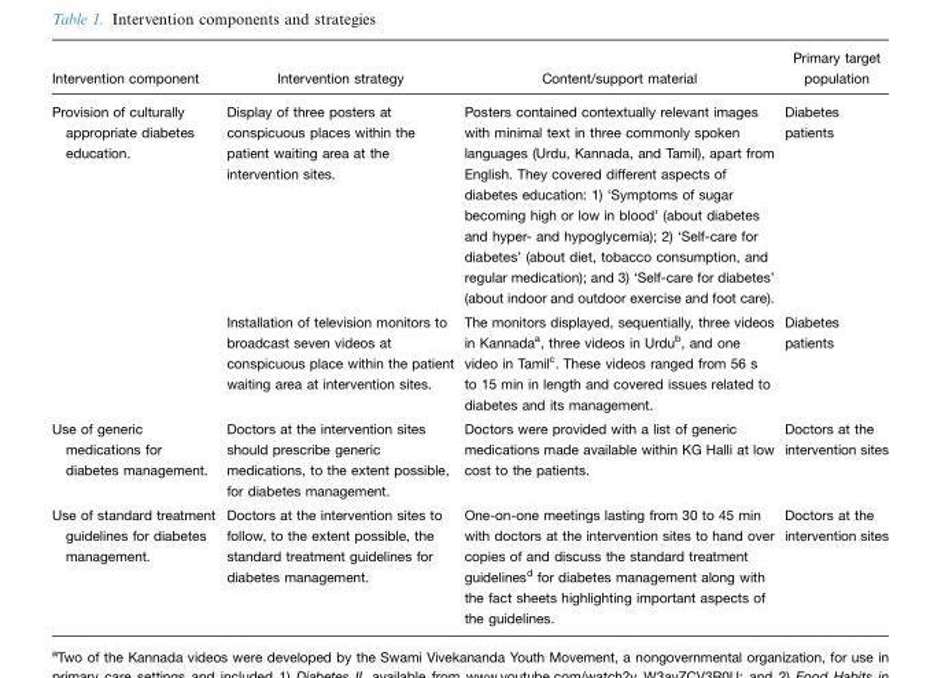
<table><thead><tr><td>Intervention component</td><td>Intervention strategy</td><td>Content/support material</td><td>Primary target population</td></tr></thead><tbody><tr><td rowspan="2">Provision of culturally appropriate diabetes education.</td><td>Display of three posters at conspicuous places within the patient waiting area at the intervention sites.</td><td>Posters contained contextually relevant images with minimal text in three commonly spoken languages (Urdu, Kannada, and Tamil), apart from English. They covered different aspects of diabetes education: 1) ‘Symptoms of sugar becoming high or low in blood’ (about diabetes and hyper- and hypoglycemia); 2) ‘Self-care for diabetes’ (about diet, tobacco consumption, and regular medication); and 3) ‘Self-care for diabetes’ (about indoor and outdoor exercise and foot care).</td><td>Diabetes patients</td></tr><tr><td>Installation of television monitors to broadcast seven videos at conspicuous place within the patient waiting area at intervention sites.</td><td>The monitors displayed, sequentially, three videos in Kannada<sup>a</sup>, three videos in Urdu<sup>b</sup>, and one video in Tamil<sup>c</sup>. These videos ranged from 56 s to 15 min in length and covered issues related to diabetes and its management.</td><td>Diabetes patients</td></tr><tr><td>Use of generic medications for diabetes management.</td><td>Doctors at the intervention sites should prescribe generic medications, to the extent possible, for diabetes management.</td><td>Doctors were provided with a list of generic medications made available within KG Halli at low cost to the patients.</td><td>Doctors at the intervention sites</td></tr><tr><td>Use of standard treatment guidelines for diabetes management.</td><td>Doctors at the intervention sites to follow, to the extent possible, the standard treatment guidelines for diabetes management.</td><td>One-on-one meetings lasting from 30 to 45 min with doctors at the intervention sites to hand over copies of and discuss the standard treatment guidelines<sup>d</sup> for diabetes management along with the fact sheets highlighting important aspects of the guidelines.</td><td>Doctors at the intervention sites</td></tr></tbody></table>